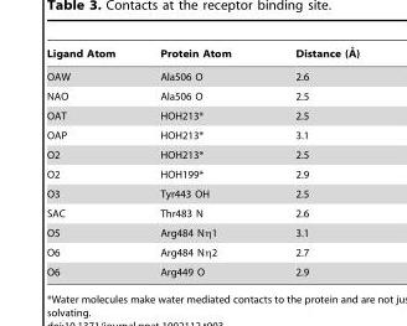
<table><thead><tr><td>Ligand Atom</td><td>Protein Atom</td><td>Distance (A˚)</td></tr></thead><tbody><tr><td>OAW</td><td>Ala506 O</td><td>2.6</td></tr><tr><td>NAO</td><td>Ala506 O</td><td>2.5</td></tr><tr><td>OAT</td><td>HOH213*</td><td>2.5</td></tr><tr><td>OAP</td><td>HOH213*</td><td>3.1</td></tr><tr><td>O2</td><td>HOH213*</td><td>2.5</td></tr><tr><td>O2</td><td>HOH199*</td><td>2.9</td></tr><tr><td>O3</td><td>Tyr443 OH</td><td>2.5</td></tr><tr><td>SAC</td><td>Thr483 N</td><td>2.6</td></tr><tr><td>O5</td><td>Arg484 Nη1</td><td>3.1</td></tr><tr><td>O6</td><td>Arg484 Nη2</td><td>2.7</td></tr><tr><td>O6</td><td>Arg449 O</td><td>2.9</td></tr></tbody></table>